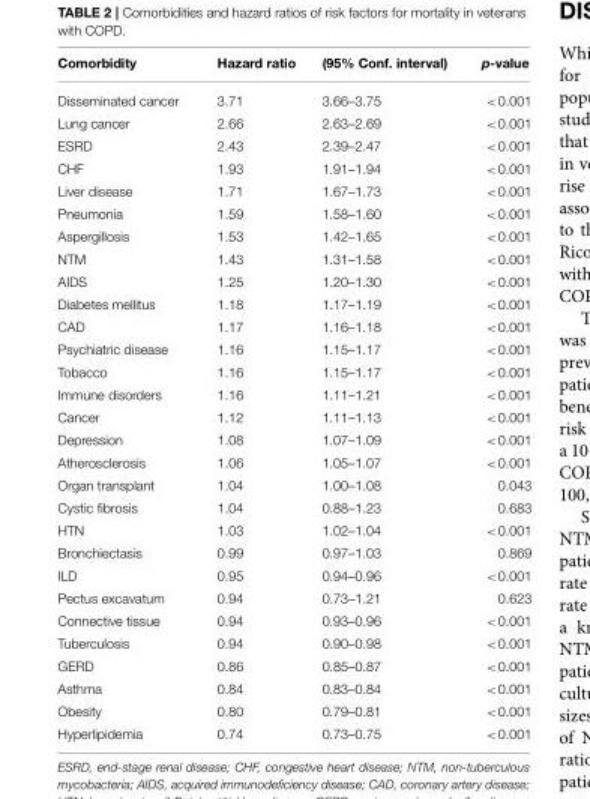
<table><thead><tr><td>Comorbidity</td><td>Hazard ratio</td><td>(95% Conf. interval)</td><td>p-value</td></tr></thead><tbody><tr><td>Disseminated cancer</td><td>3.71</td><td>3.66–3.75</td><td>&lt;0.001</td></tr><tr><td>Lung cancer</td><td>2.66</td><td>2.63–2.69</td><td>&lt;0.001</td></tr><tr><td>ESRD</td><td>2.43</td><td>2.39–2.47</td><td>&lt;0.001</td></tr><tr><td>CHF</td><td>1.93</td><td>1.91–1.94</td><td>&lt;0.001</td></tr><tr><td>Liver disease</td><td>1.71</td><td>1.67–1.73</td><td>&lt;0.001</td></tr><tr><td>Pneumonia</td><td>1.59</td><td>1.58–1.60</td><td>&lt;0.001</td></tr><tr><td>Aspergillosis</td><td>1.53</td><td>1.42–1.65</td><td>&lt;0.001</td></tr><tr><td>NTM</td><td>1.43</td><td>1.31–1.58</td><td>&lt;0.001</td></tr><tr><td>AIDS</td><td>1.25</td><td>1.20–1.30</td><td>&lt;0.001</td></tr><tr><td>Diabetes mellitus</td><td>1.18</td><td>1.17–1.19</td><td>&lt;0.001</td></tr><tr><td>CAD</td><td>1.17</td><td>1.16–1.18</td><td>&lt;0.001</td></tr><tr><td>Psychiatric disease</td><td>1.16</td><td>1.15–1.17</td><td>&lt;0.001</td></tr><tr><td>Tobacco</td><td>1.16</td><td>1.15–1.17</td><td>&lt;0.001</td></tr><tr><td>Immune disorders</td><td>1.16</td><td>1.11–1.21</td><td>&lt;0.001</td></tr><tr><td>Cancer</td><td>1.12</td><td>1.11–1.13</td><td>&lt;0.001</td></tr><tr><td>Depression</td><td>1.08</td><td>1.07–1.09</td><td>&lt;0.001</td></tr><tr><td>Atherosclerosis</td><td>1.06</td><td>1.05–1.07</td><td>&lt;0.001</td></tr><tr><td>Organ transplant</td><td>1.04</td><td>1.00–1.08</td><td>0.043</td></tr><tr><td>Cystic fibrosis</td><td>1.04</td><td>0.88–1.23</td><td>0.683</td></tr><tr><td>HTN</td><td>1.03</td><td>1.02–1.04</td><td>&lt;0.001</td></tr><tr><td>Bronchiectasis</td><td>0.99</td><td>0.97–1.03</td><td>0.869</td></tr><tr><td>ILD</td><td>0.95</td><td>0.94–0.96</td><td>&lt;0.001</td></tr><tr><td>Pectus excavatum</td><td>0.94</td><td>0.73–1.21</td><td>0.623</td></tr><tr><td>Connective tissue</td><td>0.94</td><td>0.93–0.96</td><td>&lt;0.001</td></tr><tr><td>Tuberculosis</td><td>0.94</td><td>0.90–0.98</td><td>&lt;0.001</td></tr><tr><td>GERD</td><td>0.86</td><td>0.85–0.87</td><td>&lt;0.001</td></tr><tr><td>Asthma</td><td>0.84</td><td>0.83–0.84</td><td>&lt;0.001</td></tr><tr><td>Obesity</td><td>0.80</td><td>0.79–0.81</td><td>&lt;0.001</td></tr><tr><td>Hyperlipidemia</td><td>0.74</td><td>0.73–0.75</td><td>&lt;0.001</td></tr></tbody></table>